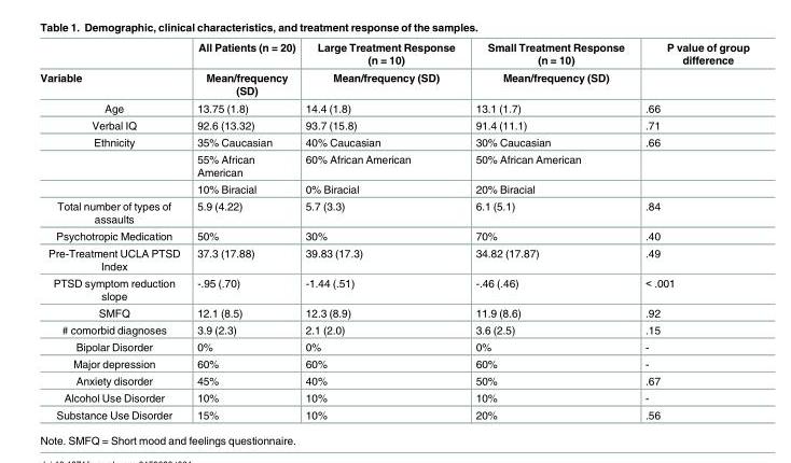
<table><thead><tr><td rowspan="2">Variable</td><td rowspan="2">All Patients (n = 20) Mean/frequency (SD)</td><td rowspan="2">Large Treatment Response (n = 10) Mean/frequency (SD)</td><td rowspan="2">Small Treatment Response (n = 10) Mean/frequency (SD)</td><td rowspan="2">P value of group difference</td></tr><tr></tr></thead><tbody><tr><td>Age</td><td>13.75 (1.8)</td><td>14.4 (1.8)</td><td>13.1 (1.7)</td><td>.66</td></tr><tr><td>Verbal IQ</td><td>92.6 (13.32)</td><td>93.7 (15.8)</td><td>91.4 (11.1)</td><td>.71</td></tr><tr><td rowspan="3">Ethnicity</td><td>35% Caucasian</td><td>40% Caucasian</td><td>30% Caucasian</td><td>.66</td></tr><tr><td>55% African American</td><td>60% African American</td><td>50% African American</td><td></td></tr><tr><td>10% Biracial</td><td>0% Biracial</td><td>20% Biracial</td><td></td></tr><tr><td>Total number of types of assaults</td><td>5.9 (4.22)</td><td>5.7 (3.3)</td><td>6.1 (5.1)</td><td>.84</td></tr><tr><td>Psychotropic Medication</td><td>50%</td><td>30%</td><td>70%</td><td>.40</td></tr><tr><td>Pre-Treatment UCLA PTSD Index</td><td>37.3 (17.88)</td><td>39.83 (17.3)</td><td>34.82 (17.87)</td><td>.49</td></tr><tr><td>PTSD symptom reduction slope</td><td>-.95 (.70)</td><td>-1.44 (.51)</td><td>-.46 (.46)</td><td>&lt; .001</td></tr><tr><td>SMFQ</td><td>12.1 (8.5)</td><td>12.3 (8.9)</td><td>11.9 (8.6)</td><td>.92</td></tr><tr><td># comorbid diagnoses</td><td>3.9 (2.3)</td><td>2.1 (2.0)</td><td>3.6 (2.5)</td><td>.15</td></tr><tr><td>Bipolar Disorder</td><td>0%</td><td>0%</td><td>0%</td><td>-</td></tr><tr><td>Major depression</td><td>60%</td><td>60%</td><td>60%</td><td>-</td></tr><tr><td>Anxiety disorder</td><td>45%</td><td>40%</td><td>50%</td><td>.67</td></tr><tr><td>Alcohol Use Disorder</td><td>10%</td><td>10%</td><td>10%</td><td>-</td></tr><tr><td>Substance Use Disorder</td><td>15%</td><td>10%</td><td>20%</td><td>.56</td></tr></tbody></table>